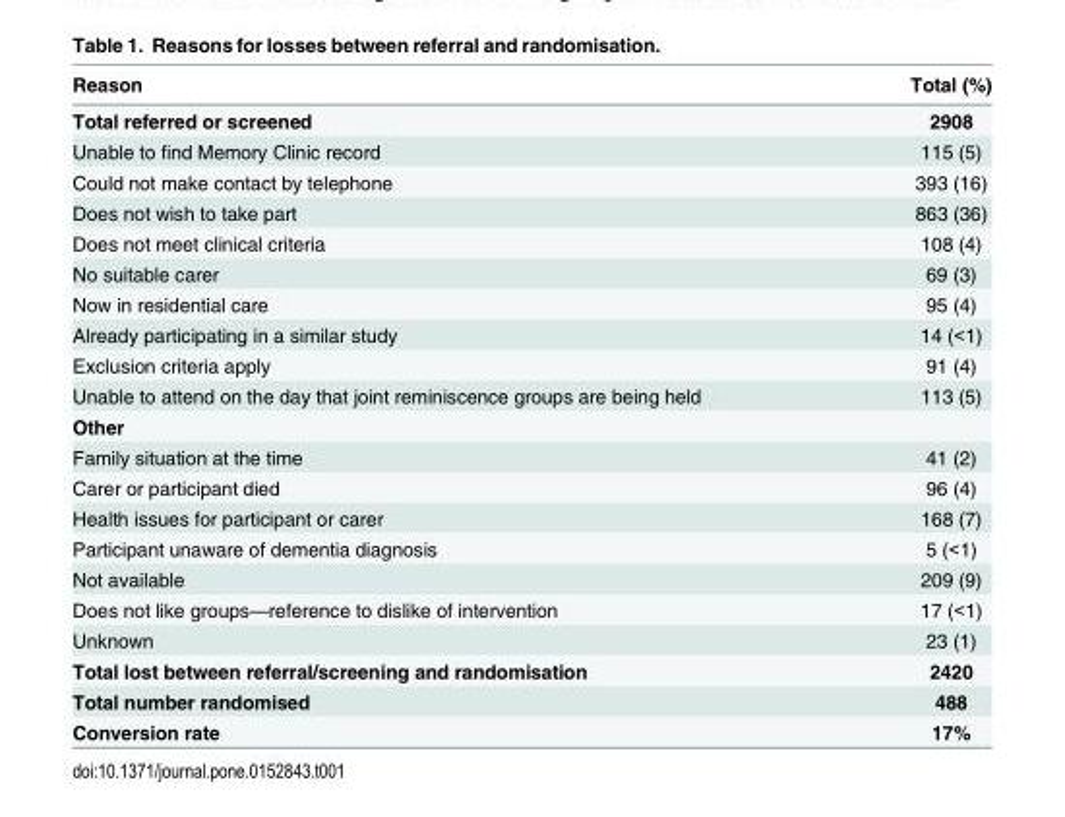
<table><thead><tr><td>Reason</td><td>Total (%)</td></tr></thead><tbody><tr><td>Total referred or screened</td><td>2908</td></tr><tr><td>Unable to find Memory Clinic record</td><td>115 (5)</td></tr><tr><td>Could not make contact by telephone</td><td>393 (16)</td></tr><tr><td>Does not wish to take part</td><td>863 (36)</td></tr><tr><td>Does not meet clinical criteria</td><td>108 (4)</td></tr><tr><td>No suitable carer</td><td>69 (3)</td></tr><tr><td>Now in residential care</td><td>95 (4)</td></tr><tr><td>Already participating in a similar study</td><td>14 (&lt;1)</td></tr><tr><td>Exclusion criteria apply</td><td>91 (4)</td></tr><tr><td>Unable to attend on the day that joint reminiscence groups are being held</td><td>113 (5)</td></tr><tr><td colspan="2">Other</td></tr><tr><td>Family situation at the time</td><td>41 (2)</td></tr><tr><td>Carer or participant died</td><td>96 (4)</td></tr><tr><td>Health issues for participant or carer</td><td>168 (7)</td></tr><tr><td>Participant unaware of dementia diagnosis</td><td>5 (&lt;1)</td></tr><tr><td>Not available</td><td>209 (9)</td></tr><tr><td>Does not like groups—reference to dislike of intervention</td><td>17 (&lt;1)</td></tr><tr><td>Unknown</td><td>23 (1)</td></tr><tr><td>Total lost between referral/screening and randomisation</td><td>2420</td></tr><tr><td>Total number randomised</td><td>488</td></tr><tr><td>Conversion rate</td><td>17%</td></tr></tbody></table>